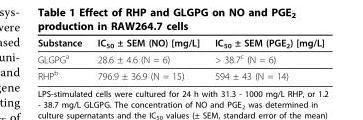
<table><thead><tr><td>Substance</td><td>IC<sub>50</sub> ± SEM (NO) [mg/L]</td><td>IC<sub>50</sub> ± SEM (PGE<sub>2</sub>) [mg/L]</td></tr></thead><tbody><tr><td>GLGPG<sup>a</sup></td><td>28.6 ± 4.6 (N = 6)</td><td>&gt; 38.7<sup>c</sup> (N = 6)</td></tr><tr><td>RHP<sup>b</sup></td><td>796.9 ± 36.9 (N = 15)</td><td>594 ± 43 (N = 14)</td></tr></tbody></table>